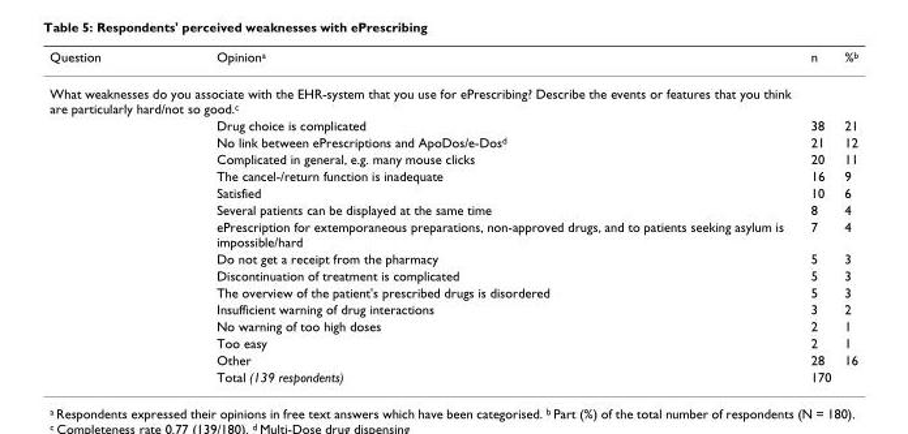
<table><thead><tr><td>Question</td><td>Opinion<sup>a</sup></td><td>n</td><td>%<sup>b</sup></td></tr></thead><tbody><tr><td colspan="4">What weaknesses do you associate with the EHR-system that you use for ePrescribing? Describe the events or features that you think are particularly hard/not so good.<sup>c</sup></td></tr><tr><td></td><td>Drug choice is complicated</td><td>38</td><td>21</td></tr><tr><td></td><td>No link between ePrescriptions and ApoDos/e-Dos<sup>d</sup></td><td>21</td><td>12</td></tr><tr><td></td><td>Complicated in general, e.g. many mouse clicks</td><td>20</td><td>11</td></tr><tr><td></td><td>The cancel-/return function is inadequate</td><td>16</td><td>9</td></tr><tr><td></td><td>Satisfied</td><td>10</td><td>6</td></tr><tr><td></td><td>Several patients can be displayed at the same time</td><td>8</td><td>4</td></tr><tr><td></td><td>ePrescription for extemporaneous preparations, non-approved drugs, and to patients seeking asylum is impossible/hard</td><td>7</td><td>4</td></tr><tr><td></td><td>Do not get a receipt from the pharmacy</td><td>5</td><td>3</td></tr><tr><td></td><td>Discontinuation of treatment is complicated</td><td>5</td><td>3</td></tr><tr><td></td><td>The overview of the patient&#x27;s prescribed drugs is disordered</td><td>5</td><td>3</td></tr><tr><td></td><td>Insufficient warning of drug interactions</td><td>3</td><td>2</td></tr><tr><td></td><td>No warning of too high doses</td><td>2</td><td>1</td></tr><tr><td></td><td>Too easy</td><td>2</td><td>1</td></tr><tr><td></td><td>Other</td><td>28</td><td>16</td></tr><tr><td></td><td>Total (139 respondents)</td><td>170</td><td></td></tr></tbody></table>